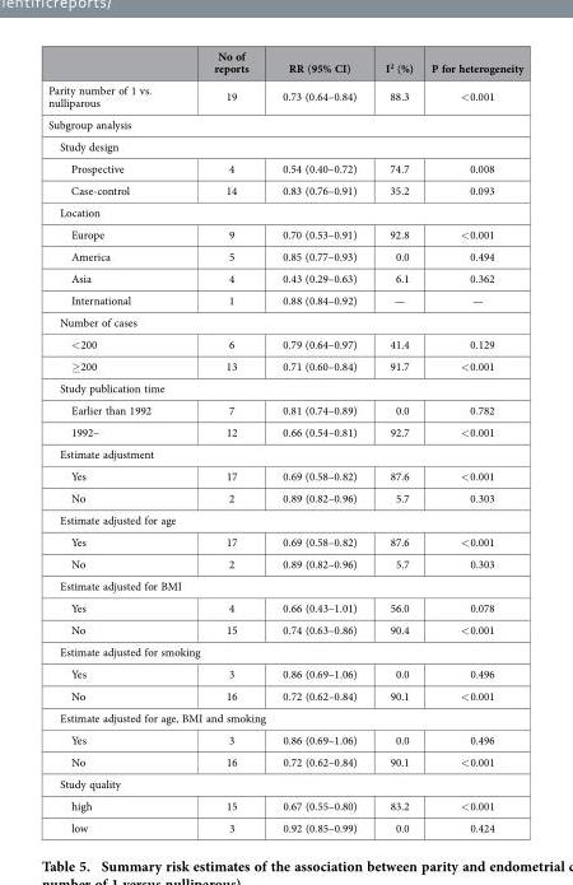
<table><thead><tr><td></td><td>No of reports</td><td>RR (95% CI)</td><td>I<sup>2</sup> (%)</td><td>P for heterogeneity</td></tr></thead><tbody><tr><td>Parity number of 1 vs. nulliparous</td><td>19</td><td>0.73 (0.64–0.84)</td><td>88.3</td><td>&lt; 0.001</td></tr><tr><td colspan="5">Subgroup analysis</td></tr><tr><td colspan="5">Study design</td></tr><tr><td>Prospective</td><td>4</td><td>0.54 (0.40–0.72)</td><td>74.7</td><td>0.008</td></tr><tr><td>Case-control</td><td>14</td><td>0.83 (0.76–0.91)</td><td>35.2</td><td>0.093</td></tr><tr><td colspan="5">Location</td></tr><tr><td>Europe</td><td>9</td><td>0.70 (0.53–0.91)</td><td>92.8</td><td>&lt; 0.001</td></tr><tr><td>America</td><td>5</td><td>0.85 (0.77–0.93)</td><td>0.0</td><td>0.494</td></tr><tr><td>Asia</td><td>4</td><td>0.43 (0.29–0.63)</td><td>6.1</td><td>0.362</td></tr><tr><td>International</td><td>1</td><td>0.88 (0.84–0.92)</td><td>—</td><td>—</td></tr><tr><td colspan="5">Number of cases</td></tr><tr><td>&lt; 200</td><td>6</td><td>0.79 (0.64–0.97)</td><td>41.4</td><td>0.129</td></tr><tr><td>≥ 200</td><td>13</td><td>0.71 (0.60–0.84)</td><td>91.7</td><td>&lt; 0.001</td></tr><tr><td colspan="5">Study publication time</td></tr><tr><td>Earlier than 1992</td><td>7</td><td>0.81 (0.74–0.89)</td><td>0.0</td><td>0.782</td></tr><tr><td>1992–</td><td>12</td><td>0.66 (0.54–0.81)</td><td>92.7</td><td>&lt; 0.001</td></tr><tr><td colspan="5">Estimate adjustment</td></tr><tr><td>Yes</td><td>17</td><td>0.69 (0.58–0.82)</td><td>87.6</td><td>&lt; 0.001</td></tr><tr><td>No</td><td>2</td><td>0.89 (0.82–0.96)</td><td>5.7</td><td>0.303</td></tr><tr><td colspan="5">Estimate adjusted for age</td></tr><tr><td>Yes</td><td>17</td><td>0.69 (0.58–0.82)</td><td>87.6</td><td>&lt; 0.001</td></tr><tr><td>No</td><td>2</td><td>0.89 (0.82–0.96)</td><td>5.7</td><td>0.303</td></tr><tr><td colspan="5">Estimate adjusted for BMI</td></tr><tr><td>Yes</td><td>4</td><td>0.66 (0.43–1.01)</td><td>56.0</td><td>0.078</td></tr><tr><td>No</td><td>15</td><td>0.74 (0.63–0.86)</td><td>90.4</td><td>&lt; 0.001</td></tr><tr><td colspan="5">Estimate adjusted for smoking</td></tr><tr><td>Yes</td><td>3</td><td>0.86 (0.69–1.06)</td><td>0.0</td><td>0.496</td></tr><tr><td>No</td><td>16</td><td>0.72 (0.62–0.84)</td><td>90.1</td><td>&lt; 0.001</td></tr><tr><td colspan="5">Estimate adjusted for age, BMI and smoking</td></tr><tr><td>Yes</td><td>3</td><td>0.86 (0.69–1.06)</td><td>0.0</td><td>0.496</td></tr><tr><td>No</td><td>16</td><td>0.72 (0.62–0.84)</td><td>90.1</td><td>&lt; 0.001</td></tr><tr><td colspan="5">Study quality</td></tr><tr><td>high</td><td>15</td><td>0.67 (0.55–0.80)</td><td>83.2</td><td>&lt; 0.001</td></tr><tr><td>low</td><td>3</td><td>0.92 (0.85–0.99)</td><td>0.0</td><td>0.424</td></tr></tbody></table>